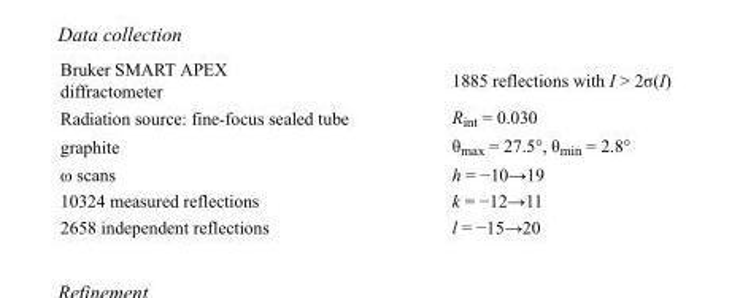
<table><tbody><tr><td>Bruker SMART APEX diffractometer</td><td>1885 reflections with I &gt; 2σ(I)</td></tr><tr><td>Radiation source: fine-focus sealed tube</td><td>R<sub>int</sub> = 0.030</td></tr><tr><td>graphite</td><td>θ<sub>max</sub> = 27.5°, θ<sub>min</sub> = 2.8°</td></tr><tr><td>ω scans</td><td>h = −10→19</td></tr><tr><td>10324 measured reflections</td><td>k = −12→11</td></tr><tr><td>2658 independent reflections</td><td>l = −15→20</td></tr></tbody></table>